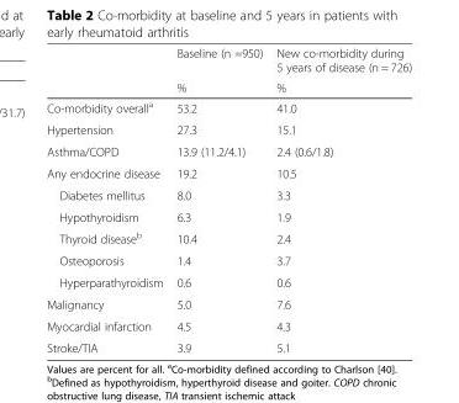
<table><thead><tr><td rowspan="2"></td><td rowspan="2">Baseline (n =950) %</td><td rowspan="2">New co-morbidity during 5 years of disease (n = 726) %</td></tr><tr></tr></thead><tbody><tr><td>Co-morbidity overall<sup>a</sup></td><td>53.2</td><td>41.0</td></tr><tr><td>Hypertension</td><td>27.3</td><td>15.1</td></tr><tr><td>Asthma/COPD</td><td>13.9 (11.2/4.1)</td><td>2.4 (0.6/1.8)</td></tr><tr><td>Any endocrine disease</td><td>19.2</td><td>10.5</td></tr><tr><td>Diabetes mellitus</td><td>8.0</td><td>3.3</td></tr><tr><td>Hypothyroidism</td><td>6.3</td><td>1.9</td></tr><tr><td>Thyroid disease<sup>b</sup></td><td>10.4</td><td>2.4</td></tr><tr><td>Osteoporosis</td><td>1.4</td><td>3.7</td></tr><tr><td>Hyperparathyroidism</td><td>0.6</td><td>0.6</td></tr><tr><td>Malignancy</td><td>5.0</td><td>7.6</td></tr><tr><td>Myocardial infarction</td><td>4.5</td><td>4.3</td></tr><tr><td>Stroke/TIA</td><td>3.9</td><td>5.1</td></tr></tbody></table>